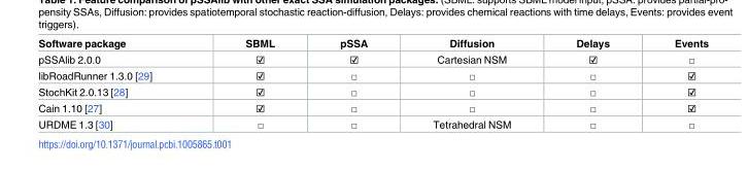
<table><thead><tr><td>Software package</td><td>SBML</td><td>pSSA</td><td>Diffusion</td><td>Delays</td><td>Events</td></tr></thead><tbody><tr><td>pSSAlib 2.0.0</td><td>☑</td><td>☑</td><td>Cartesian NSM</td><td>☑</td><td>□</td></tr><tr><td>libRoadRunner 1.3.0 [29]</td><td>☑</td><td>□</td><td>□</td><td>□</td><td>☑</td></tr><tr><td>StochKit 2.0.13 [28]</td><td>☑</td><td>□</td><td>□</td><td>□</td><td>☑</td></tr><tr><td>Cain 1.10 [27]</td><td>☑</td><td>□</td><td>□</td><td>□</td><td>☑</td></tr><tr><td>URDME 1.3 [30]</td><td>□</td><td>□</td><td>Tetrahedral NSM</td><td>□</td><td>□</td></tr></tbody></table>